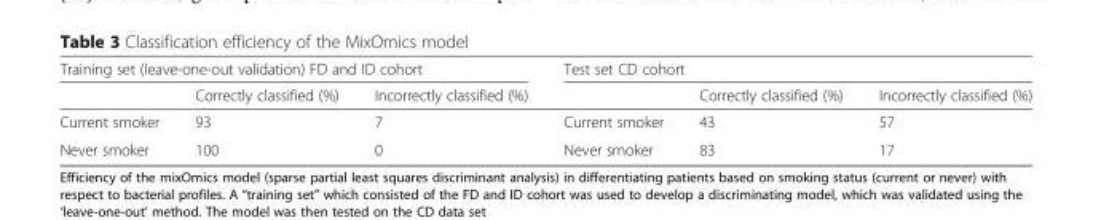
<table><thead><tr><td colspan="3">Training set (leave-one-out validation) FD and ID cohort</td><td colspan="3">Test set CD cohort</td></tr><tr><td></td><td>Correctly classified (%)</td><td>Incorrectly classified (%)</td><td></td><td>Correctly classified (%)</td><td>Incorrectly classified (%)</td></tr></thead><tbody><tr><td>Current smoker</td><td>93</td><td>7</td><td>Current smoker</td><td>43</td><td>57</td></tr><tr><td>Never smoker</td><td>100</td><td>0</td><td>Never smoker</td><td>83</td><td>17</td></tr></tbody></table>